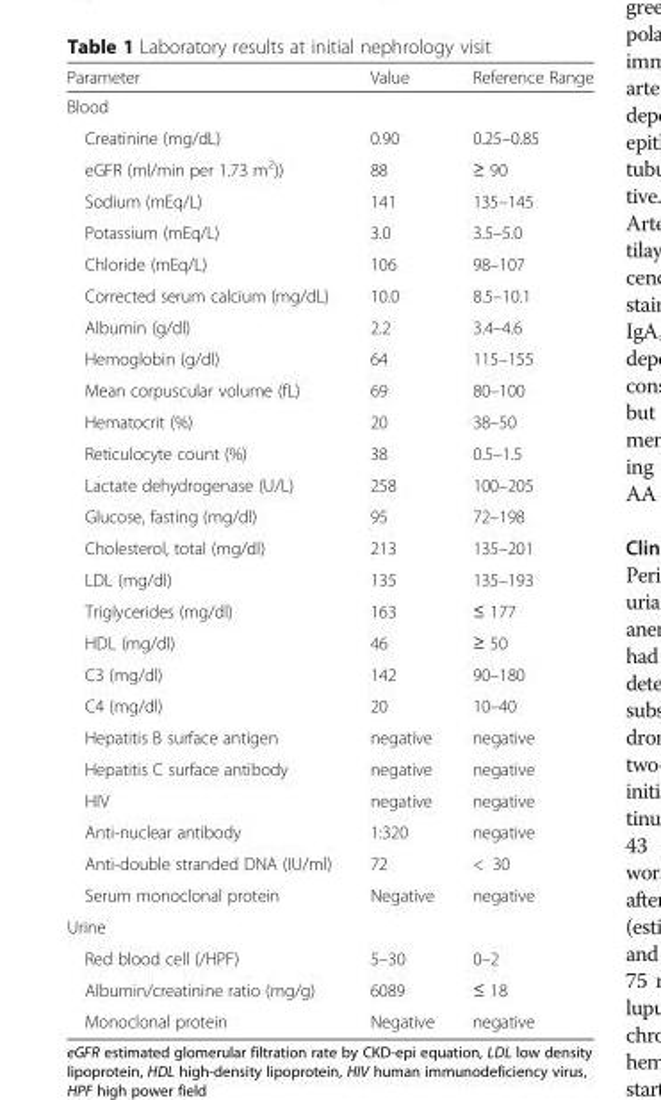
<table><thead><tr><td>Parameter</td><td>Value</td><td>Reference Range</td></tr></thead><tbody><tr><td colspan="3">Blood</td></tr><tr><td>Creatinine (mg/dL)</td><td>0.90</td><td>0.25–0.85</td></tr><tr><td>eGFR (ml/min per 1.73 m<sup>2</sup>))</td><td>88</td><td>≥ 90</td></tr><tr><td>Sodium (mEq/L)</td><td>141</td><td>135–145</td></tr><tr><td>Potassium (mEq/L)</td><td>3.0</td><td>3.5–5.0</td></tr><tr><td>Chloride (mEq/L)</td><td>106</td><td>98–107</td></tr><tr><td>Corrected serum calcium (mg/dL)</td><td>10.0</td><td>8.5–10.1</td></tr><tr><td>Albumin (g/dl)</td><td>2.2</td><td>3.4–4.6</td></tr><tr><td>Hemoglobin (g/dl)</td><td>64</td><td>115–155</td></tr><tr><td>Mean corpuscular volume (fL)</td><td>69</td><td>80–100</td></tr><tr><td>Hematocrit (%)</td><td>20</td><td>38–50</td></tr><tr><td>Reticulocyte count (%)</td><td>38</td><td>0.5–1.5</td></tr><tr><td>Lactate dehydrogenase (U/L)</td><td>258</td><td>100–205</td></tr><tr><td>Glucose, fasting (mg/dl)</td><td>95</td><td>72–198</td></tr><tr><td>Cholesterol, total (mg/dl)</td><td>213</td><td>135–201</td></tr><tr><td>LDL (mg/dl)</td><td>135</td><td>135–193</td></tr><tr><td>Triglycerides (mg/dl)</td><td>163</td><td>≤ 177</td></tr><tr><td>HDL (mg/dl)</td><td>46</td><td>≥ 50</td></tr><tr><td>C3 (mg/dl)</td><td>142</td><td>90–180</td></tr><tr><td>C4 (mg/dl)</td><td>20</td><td>10–40</td></tr><tr><td>Hepatitis B surface antigen</td><td>negative</td><td>negative</td></tr><tr><td>Hepatitis C surface antibody</td><td>negative</td><td>negative</td></tr><tr><td>HIV</td><td>negative</td><td>negative</td></tr><tr><td>Anti-nuclear antibody</td><td>1:320</td><td>negative</td></tr><tr><td>Anti-double stranded DNA (IU/ml)</td><td>72</td><td>&lt; 30</td></tr><tr><td>Serum monoclonal protein</td><td>Negative</td><td>negative</td></tr><tr><td colspan="3">Urine</td></tr><tr><td>Red blood cell (/HPF)</td><td>5–30</td><td>0–2</td></tr><tr><td>Albumin/creatinine ratio (mg/g)</td><td>6089</td><td>≤ 18</td></tr><tr><td>Monoclonal protein</td><td>Negative</td><td>negative</td></tr></tbody></table>